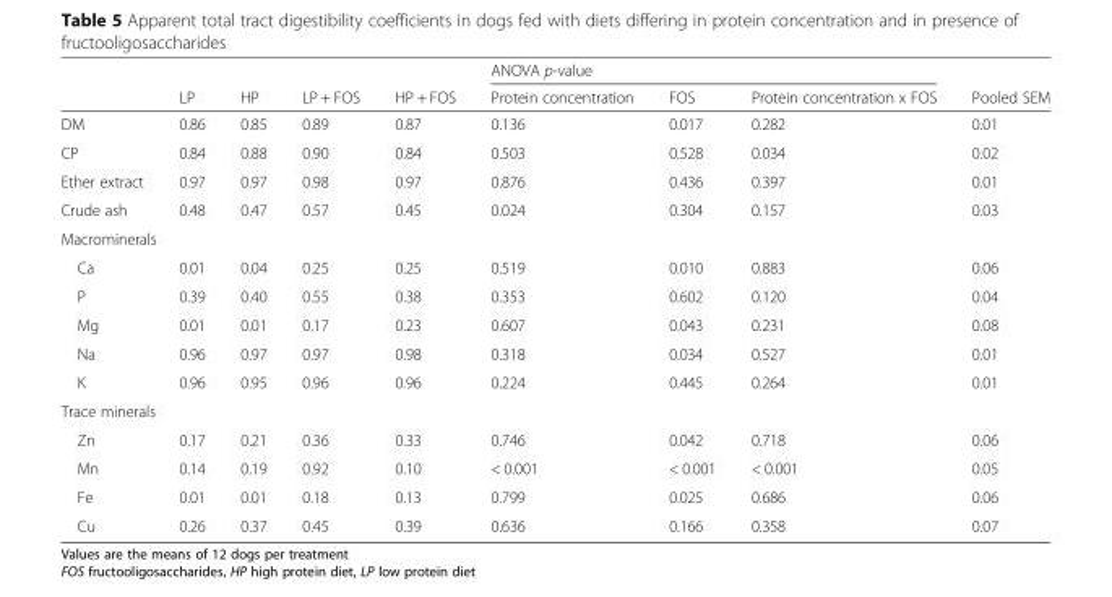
<table><thead><tr><td rowspan="2"></td><td rowspan="2">LP</td><td rowspan="2">HP</td><td rowspan="2">LP + FOS</td><td rowspan="2">HP + FOS</td><td colspan="3">ANOVA p-value</td><td rowspan="2">Pooled SEM</td></tr><tr><td>Protein concentration</td><td>FOS</td><td>Protein concentration x FOS</td></tr></thead><tbody><tr><td>DM</td><td>0.86</td><td>0.85</td><td>0.89</td><td>0.87</td><td>0.136</td><td>0.017</td><td>0.282</td><td>0.01</td></tr><tr><td>CP</td><td>0.84</td><td>0.88</td><td>0.90</td><td>0.84</td><td>0.503</td><td>0.528</td><td>0.034</td><td>0.02</td></tr><tr><td>Ether extract</td><td>0.97</td><td>0.97</td><td>0.98</td><td>0.97</td><td>0.876</td><td>0.436</td><td>0.397</td><td>0.01</td></tr><tr><td>Crude ash</td><td>0.48</td><td>0.47</td><td>0.57</td><td>0.45</td><td>0.024</td><td>0.304</td><td>0.157</td><td>0.03</td></tr><tr><td colspan="9">Macrominerals</td></tr><tr><td>Ca</td><td>0.01</td><td>0.04</td><td>0.25</td><td>0.25</td><td>0.519</td><td>0.010</td><td>0.883</td><td>0.06</td></tr><tr><td>P</td><td>0.39</td><td>0.40</td><td>0.55</td><td>0.38</td><td>0.353</td><td>0.602</td><td>0.120</td><td>0.04</td></tr><tr><td>Mg</td><td>0.01</td><td>0.01</td><td>0.17</td><td>0.23</td><td>0.607</td><td>0.043</td><td>0.231</td><td>0.08</td></tr><tr><td>Na</td><td>0.96</td><td>0.97</td><td>0.97</td><td>0.98</td><td>0.318</td><td>0.034</td><td>0.527</td><td>0.01</td></tr><tr><td>K</td><td>0.96</td><td>0.95</td><td>0.96</td><td>0.96</td><td>0.224</td><td>0.445</td><td>0.264</td><td>0.01</td></tr><tr><td colspan="9">Trace minerals</td></tr><tr><td>Zn</td><td>0.17</td><td>0.21</td><td>0.36</td><td>0.33</td><td>0.746</td><td>0.042</td><td>0.718</td><td>0.06</td></tr><tr><td>Mn</td><td>0.14</td><td>0.19</td><td>0.92</td><td>0.10</td><td>&lt; 0.001</td><td>&lt; 0.001</td><td>&lt; 0.001</td><td>0.05</td></tr><tr><td>Fe</td><td>0.01</td><td>0.01</td><td>0.18</td><td>0.13</td><td>0.799</td><td>0.025</td><td>0.686</td><td>0.06</td></tr><tr><td>Cu</td><td>0.26</td><td>0.37</td><td>0.45</td><td>0.39</td><td>0.636</td><td>0.166</td><td>0.358</td><td>0.07</td></tr></tbody></table>